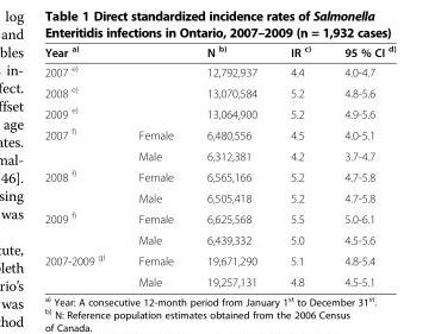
<table><thead><tr><td colspan="2">Year <sup>a)</sup></td><td>N <sup>b)</sup></td><td>IR <sup>c)</sup></td><td>95 % CI <sup>d)</sup></td></tr></thead><tbody><tr><td colspan="2">2007 <sup>e)</sup></td><td>12,792,937</td><td>4.4</td><td>4.0-4.7</td></tr><tr><td colspan="2">2008 <sup>e)</sup></td><td>13,070,584</td><td>5.2</td><td>4.8-5.6</td></tr><tr><td colspan="2">2009 <sup>e)</sup></td><td>13,064,900</td><td>5.2</td><td>4.9-5.6</td></tr><tr><td rowspan="2">2007 <sup>f)</sup></td><td>Female</td><td>6,480,556</td><td>4.5</td><td>4.0-5.1</td></tr><tr><td>Male</td><td>6,312,381</td><td>4.2</td><td>3.7-4.7</td></tr><tr><td rowspan="2">2008 <sup>f)</sup></td><td>Female</td><td>6,565,166</td><td>5.2</td><td>4.7-5.8</td></tr><tr><td>Male</td><td>6,505,418</td><td>5.2</td><td>4.7-5.8</td></tr><tr><td rowspan="2">2009 <sup>f)</sup></td><td>Female</td><td>6,625,568</td><td>5.5</td><td>5.0-6.1</td></tr><tr><td>Male</td><td>6,439,332</td><td>5.0</td><td>4.5-5.6</td></tr><tr><td rowspan="2">2007-2009 <sup>g)</sup></td><td>Female</td><td>19,671,290</td><td>5.1</td><td>4.8-5.4</td></tr><tr><td>Male</td><td>19,257,131</td><td>4.8</td><td>4.5-5.1</td></tr></tbody></table>